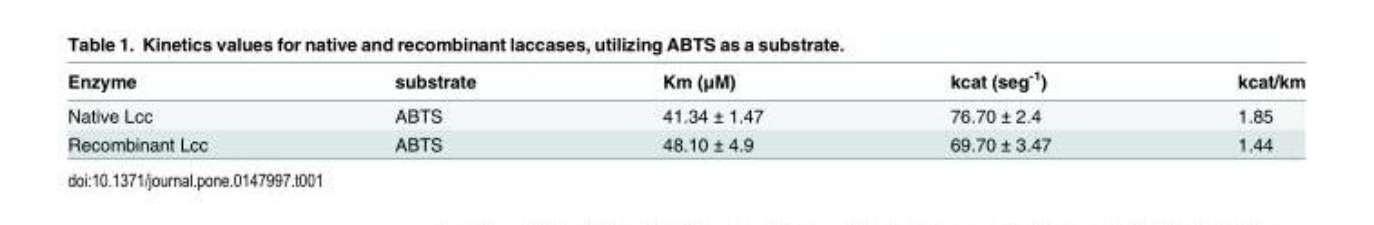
<table><thead><tr><td>Enzyme</td><td>substrate</td><td>Km (μM)</td><td>kcat (seg<sup>-1</sup>)</td><td>kcat/km</td></tr></thead><tbody><tr><td>Native Lcc</td><td>ABTS</td><td>41.34 ± 1.47</td><td>76.70 ± 2.4</td><td>1.85</td></tr><tr><td>Recombinant Lcc</td><td>ABTS</td><td>48.10 ± 4.9</td><td>69.70 ± 3.47</td><td>1.44</td></tr></tbody></table>